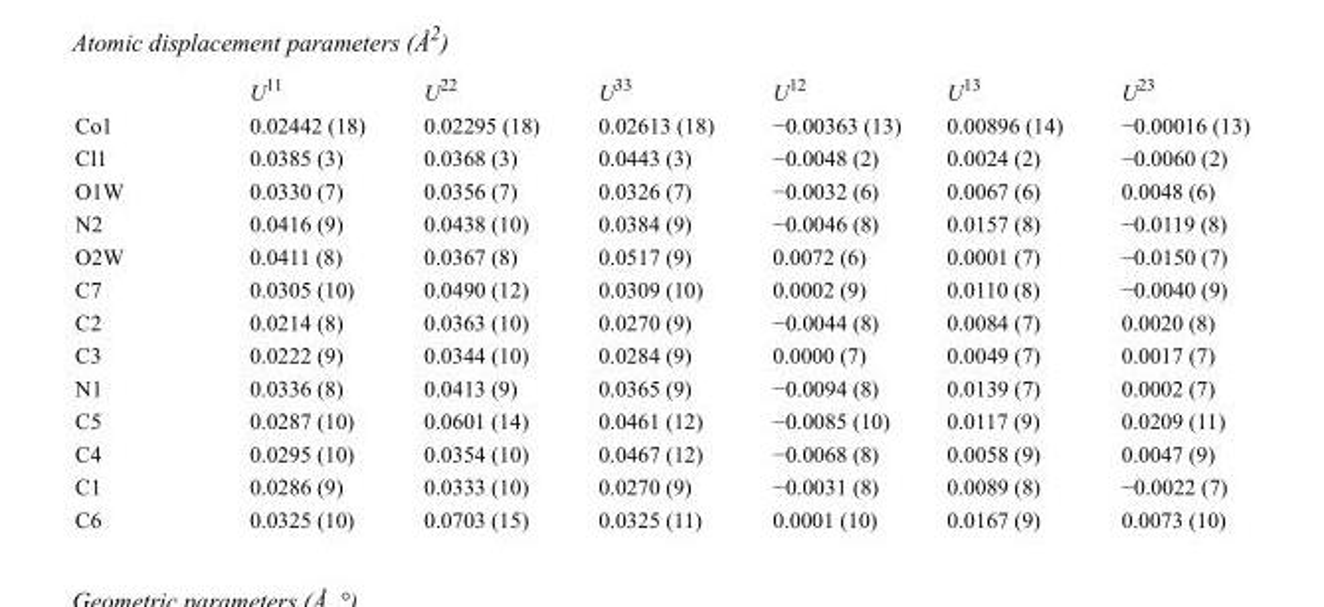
<table><thead><tr><td></td><td>U<sup>11</sup></td><td>U<sup>22</sup></td><td>U<sup>33</sup></td><td>U<sup>12</sup></td><td>U<sup>13</sup></td><td>U<sup>23</sup></td></tr></thead><tbody><tr><td>Co1</td><td>0.02442 (18)</td><td>0.02295 (18)</td><td>0.02613 (18)</td><td>−0.00363 (13)</td><td>0.00896 (14)</td><td>−0.00016 (13)</td></tr><tr><td>Cl1</td><td>0.0385 (3)</td><td>0.0368 (3)</td><td>0.0443 (3)</td><td>−0.0048 (2)</td><td>0.0024 (2)</td><td>−0.0060 (2)</td></tr><tr><td>O1W</td><td>0.0330 (7)</td><td>0.0356 (7)</td><td>0.0326 (7)</td><td>−0.0032 (6)</td><td>0.0067 (6)</td><td>0.0048 (6)</td></tr><tr><td>N2</td><td>0.0416 (9)</td><td>0.0438 (10)</td><td>0.0384 (9)</td><td>−0.0046 (8)</td><td>0.0157 (8)</td><td>−0.0119 (8)</td></tr><tr><td>O2W</td><td>0.0411 (8)</td><td>0.0367 (8)</td><td>0.0517 (9)</td><td>0.0072 (6)</td><td>0.0001 (7)</td><td>−0.0150 (7)</td></tr><tr><td>C7</td><td>0.0305 (10)</td><td>0.0490 (12)</td><td>0.0309 (10)</td><td>0.0002 (9)</td><td>0.0110 (8)</td><td>−0.0040 (9)</td></tr><tr><td>C2</td><td>0.0214 (8)</td><td>0.0363 (10)</td><td>0.0270 (9)</td><td>−0.0044 (8)</td><td>0.0084 (7)</td><td>0.0020 (8)</td></tr><tr><td>C3</td><td>0.0222 (9)</td><td>0.0344 (10)</td><td>0.0284 (9)</td><td>0.0000 (7)</td><td>0.0049 (7)</td><td>0.0017 (7)</td></tr><tr><td>N1</td><td>0.0336 (8)</td><td>0.0413 (9)</td><td>0.0365 (9)</td><td>−0.0094 (8)</td><td>0.0139 (7)</td><td>0.0002 (7)</td></tr><tr><td>C5</td><td>0.0287 (10)</td><td>0.0601 (14)</td><td>0.0461 (12)</td><td>−0.0085 (10)</td><td>0.0117 (9)</td><td>0.0209 (11)</td></tr><tr><td>C4</td><td>0.0295 (10)</td><td>0.0354 (10)</td><td>0.0467 (12)</td><td>−0.0068 (8)</td><td>0.0058 (9)</td><td>0.0047 (9)</td></tr><tr><td>C1</td><td>0.0286 (9)</td><td>0.0333 (10)</td><td>0.0270 (9)</td><td>−0.0031 (8)</td><td>0.0089 (8)</td><td>−0.0022 (7)</td></tr><tr><td>C6</td><td>0.0325 (10)</td><td>0.0703 (15)</td><td>0.0325 (11)</td><td>0.0001 (10)</td><td>0.0167 (9)</td><td>0.0073 (10)</td></tr></tbody></table>